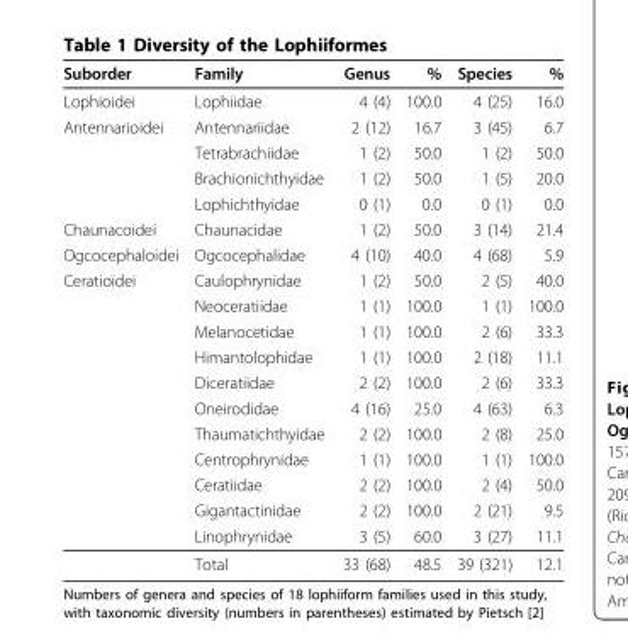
<table><thead><tr><td>Suborder</td><td>Family</td><td>Genus</td><td>%</td><td>Species</td><td>%</td></tr></thead><tbody><tr><td>Lophioidei</td><td>Lophiidae</td><td>4 (4)</td><td>100.0</td><td>4 (25)</td><td>16.0</td></tr><tr><td rowspan="4">Antennarioidei</td><td>Antennariidae</td><td>2 (12)</td><td>16.7</td><td>3 (45)</td><td>6.7</td></tr><tr><td>Tetrabrachiidae</td><td>1 (2)</td><td>50.0</td><td>1 (2)</td><td>50.0</td></tr><tr><td>Brachionichthyidae</td><td>1 (2)</td><td>50.0</td><td>1 (5)</td><td>20.0</td></tr><tr><td>Lophichthyidae</td><td>0 (1)</td><td>0.0</td><td>0 (1)</td><td>0.0</td></tr><tr><td>Chaunacoidei</td><td>Chaunacidae</td><td>1 (2)</td><td>50.0</td><td>3 (14)</td><td>21.4</td></tr><tr><td>Ogcocephaloidei</td><td>Ogcocephalidae</td><td>4 (10)</td><td>40.0</td><td>4 (68)</td><td>5.9</td></tr><tr><td rowspan="12">Ceratioidei</td><td>Caulophrynidae</td><td>1 (2)</td><td>50.0</td><td>2 (5)</td><td>40.0</td></tr><tr><td>Neoceratiidae</td><td>1 (1)</td><td>100.0</td><td>1 (1)</td><td>100.0</td></tr><tr><td>Melanocetidae</td><td>1 (1)</td><td>100.0</td><td>2 (6)</td><td>33.3</td></tr><tr><td>Himantolophidae</td><td>1 (1)</td><td>100.0</td><td>2 (18)</td><td>11.1</td></tr><tr><td>Diceratiidae</td><td>2 (2)</td><td>100.0</td><td>2 (6)</td><td>33.3</td></tr><tr><td>Oneirodidae</td><td>4 (16)</td><td>25.0</td><td>4 (63)</td><td>6.3</td></tr><tr><td>Thaumatichthyidae</td><td>2 (2)</td><td>100.0</td><td>2 (8)</td><td>25.0</td></tr><tr><td>Centrophrynidae</td><td>1 (1)</td><td>100.0</td><td>1 (1)</td><td>100.0</td></tr><tr><td>Ceratiidae</td><td>2 (2)</td><td>100.0</td><td>2 (4)</td><td>50.0</td></tr><tr><td>Gigantactinidae</td><td>2 (2)</td><td>100.0</td><td>2 (21)</td><td>9.5</td></tr><tr><td>Linophrynidae</td><td>3 (5)</td><td>60.0</td><td>3 (27)</td><td>11.1</td></tr><tr><td>Total</td><td>33 (68)</td><td>48.5</td><td>39 (321)</td><td>12.1</td></tr></tbody></table>